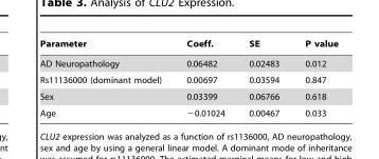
<table><thead><tr><td>Parameter</td><td>Coeff.</td><td>SE</td><td>P value</td></tr></thead><tbody><tr><td>AD Neuropathology</td><td>0.06482</td><td>0.02483</td><td>0.012</td></tr><tr><td>Rs11136000 (dominant model)</td><td>0.00697</td><td>0.03594</td><td>0.847</td></tr><tr><td>Sex</td><td>0.03399</td><td>0.06766</td><td>0.618</td></tr><tr><td>Age</td><td>−0.01024</td><td>0.00467</td><td>0.033</td></tr></tbody></table>